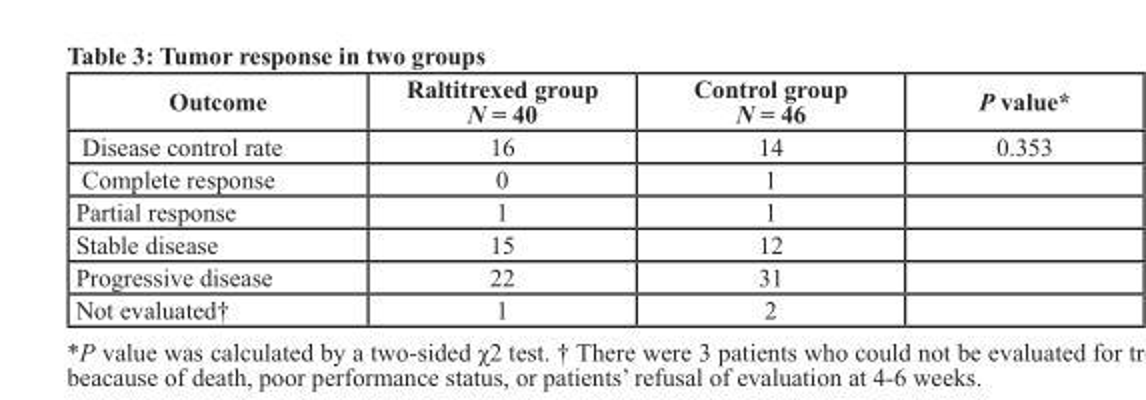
<table><thead><tr><td>Outcome</td><td>Raltitrexed group N = 40</td><td>Control group N = 46</td><td>P value*</td></tr></thead><tbody><tr><td>Disease control rate</td><td>16</td><td>14</td><td>0.353</td></tr><tr><td>Complete response</td><td>0</td><td>1</td><td></td></tr><tr><td>Partial response</td><td>1</td><td>1</td><td></td></tr><tr><td>Stable disease</td><td>15</td><td>12</td><td></td></tr><tr><td>Progressive disease</td><td>22</td><td>31</td><td></td></tr><tr><td>Not evaluated†</td><td>1</td><td>2</td><td></td></tr></tbody></table>